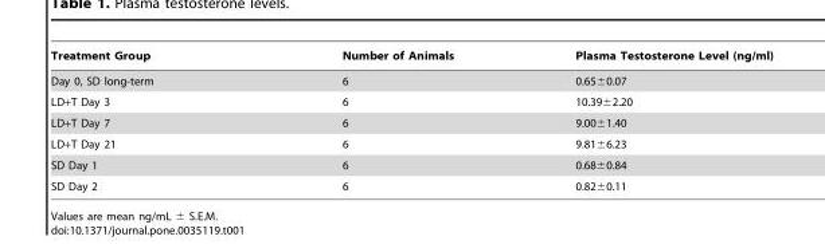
<table><thead><tr><td>Treatment Group</td><td>Number of Animals</td><td>Plasma Testosterone Level (ng/ml)</td></tr></thead><tbody><tr><td>Day 0, SD long-term</td><td>6</td><td>0.65±0.07</td></tr><tr><td>LD+T Day 3</td><td>6</td><td>10.39±2.20</td></tr><tr><td>LD+T Day 7</td><td>6</td><td>9.00±1.40</td></tr><tr><td>LD+T Day 21</td><td>6</td><td>9.81±6.23</td></tr><tr><td>SD Day 1</td><td>6</td><td>0.68±0.84</td></tr><tr><td>SD Day 2</td><td>6</td><td>0.82±0.11</td></tr></tbody></table>